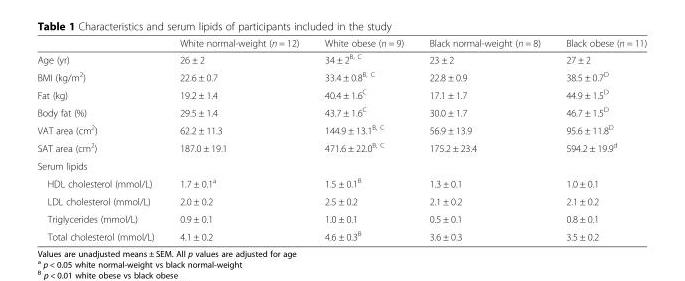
<table><thead><tr><td></td><td>White normal-weight (n = 12)</td><td>White obese (n = 9)</td><td>Black normal-weight (n = 8)</td><td>Black obese (n = 11)</td></tr></thead><tbody><tr><td>Age (yr)</td><td>26 ± 2</td><td>34 ± 2<sup>B, C</sup></td><td>23 ± 2</td><td>27 ± 2</td></tr><tr><td>BMI (kg/m<sup>2</sup>)</td><td>22.6 ± 0.7</td><td>33.4 ± 0.8<sup>B, C</sup></td><td>22.8 ± 0.9</td><td>38.5 ± 0.7<sup>D</sup></td></tr><tr><td>Fat (kg)</td><td>19.2 ± 1.4</td><td>40.4 ± 1.6<sup>C</sup></td><td>17.1 ± 1.7</td><td>44.9 ± 1.5<sup>D</sup></td></tr><tr><td>Body fat (%)</td><td>29.5 ± 1.4</td><td>43.7 ± 1.6<sup>C</sup></td><td>30.0 ± 1.7</td><td>46.7 ± 1.5<sup>D</sup></td></tr><tr><td>VAT area (cm<sup>2</sup>)</td><td>62.2 ± 11.3</td><td>144.9 ± 13.1<sup>B, C</sup></td><td>56.9 ± 13.9</td><td>95.6 ± 11.8<sup>D</sup></td></tr><tr><td>SAT area (cm<sup>2</sup>)</td><td>187.0 ± 19.1</td><td>471.6 ± 22.0<sup>B, C</sup></td><td>175.2 ± 23.4</td><td>594.2 ± 19.9<sup>d</sup></td></tr><tr><td colspan="5">Serum lipids</td></tr><tr><td>HDL cholesterol (mmol/L)</td><td>1.7 ± 0.1<sup>a</sup></td><td>1.5 ± 0.1<sup>B</sup></td><td>1.3 ± 0.1</td><td>1.0 ± 0.1</td></tr><tr><td>LDL cholesterol (mmol/L)</td><td>2.0 ± 0.2</td><td>2.5 ± 0.2</td><td>2.1 ± 0.2</td><td>2.1 ± 0.2</td></tr><tr><td>Triglycerides (mmol/L)</td><td>0.9 ± 0.1</td><td>1.0 ± 0.1</td><td>0.5 ± 0.1</td><td>0.8 ± 0.1</td></tr><tr><td>Total cholesterol (mmol/L)</td><td>4.1 ± 0.2</td><td>4.6 ± 0.3<sup>B</sup></td><td>3.6 ± 0.3</td><td>3.5 ± 0.2</td></tr></tbody></table>